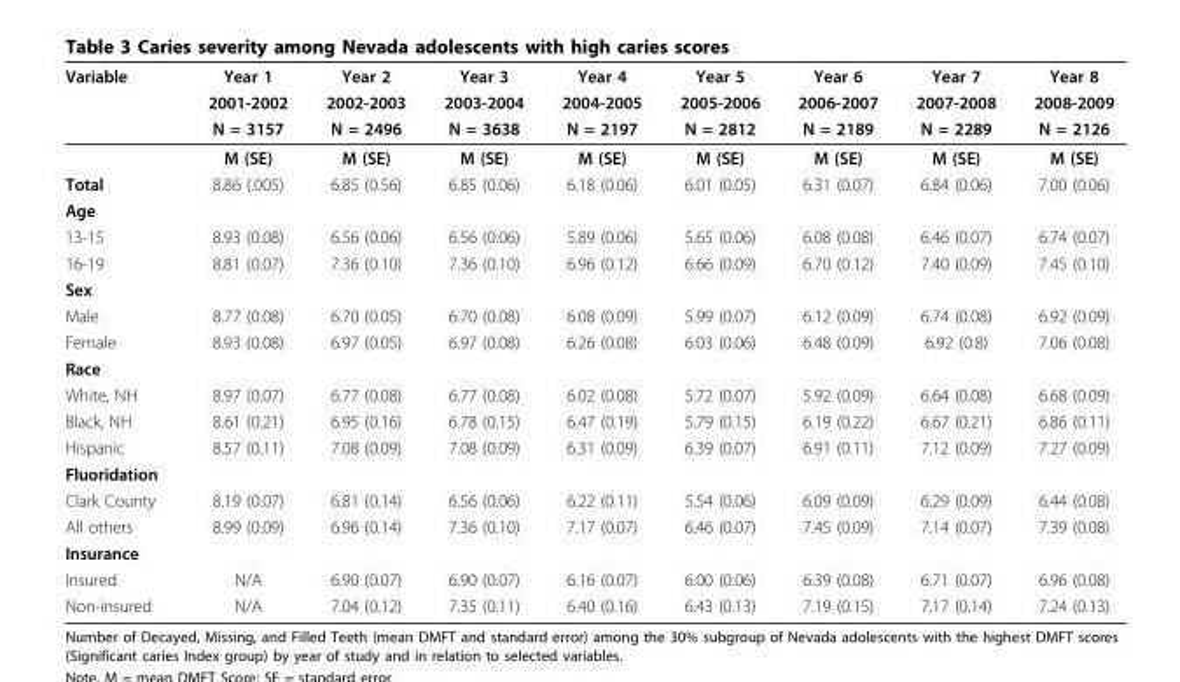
<table><thead><tr><td rowspan="3">Variable</td><td rowspan="3">Year 1 2001-2002 N = 3157</td><td rowspan="3">Year 2 2002-2003 N = 2496</td><td rowspan="3">Year 3 2003-2004 N = 3638</td><td rowspan="3">Year 4 2004-2005 N = 2197</td><td rowspan="3">Year 5 2005-2006 N = 2812</td><td rowspan="3">Year 6 2006-2007 N = 2189</td><td rowspan="3">Year 7 2007-2008 N = 2289</td><td rowspan="3">Year 8 2008-2009 N = 2126</td></tr><tr></tr><tr></tr></thead><tbody><tr><td></td><td>M (SE)</td><td>M (SE)</td><td>M (SE)</td><td>M (SE)</td><td>M (SE)</td><td>M (SE)</td><td>M (SE)</td><td>M (SE)</td></tr><tr><td>Total</td><td>8.86 (.005)</td><td>6.85 (0.56)</td><td>6.85 (0.06)</td><td>6.18 (0.06)</td><td>6.01 (0.05)</td><td>6.31 (0.07)</td><td>6.84 (0.06)</td><td>7.00 (0.06)</td></tr><tr><td colspan="9">Age</td></tr><tr><td>13-15</td><td>8.93 (0.08)</td><td>6.56 (0.06)</td><td>6.56 (0.06)</td><td>5.89 (0.06)</td><td>5.65 (0.06)</td><td>6.08 (0.08)</td><td>6.46 (0.07)</td><td>6.74 (0.07)</td></tr><tr><td>16-19</td><td>8.81 (0.07)</td><td>7.36 (0.10)</td><td>7.36 (0.10)</td><td>6.96 (0.12)</td><td>6.66 (0.09)</td><td>6.70 (0.12)</td><td>7.40 (0.09)</td><td>7.45 (0.10)</td></tr><tr><td colspan="9">Sex</td></tr><tr><td>Male</td><td>8.77 (0.08)</td><td>6.70 (0.05)</td><td>6.70 (0.08)</td><td>6.08 (0.09)</td><td>5.99 (0.07)</td><td>6.12 (0.09)</td><td>6.74 (0.08)</td><td>6.92 (0.09)</td></tr><tr><td>Female</td><td>8.93 (0.08)</td><td>6.97 (0.05)</td><td>6.97 (0.08)</td><td>6.26 (0.08)</td><td>6.03 (0.06)</td><td>6.48 (0.09)</td><td>6.92 (0.8)</td><td>7.06 (0.08)</td></tr><tr><td colspan="9">Race</td></tr><tr><td>White, NH</td><td>8.97 (0.07)</td><td>6.77 (0.08)</td><td>6.77 (0.08)</td><td>6.02 (0.08)</td><td>5.72 (0.07)</td><td>5.92 (0.09)</td><td>6.64 (0.08)</td><td>6.68 (0.09)</td></tr><tr><td>Black, NH</td><td>8.61 (0.21)</td><td>6.95 (0.16)</td><td>6.78 (0.15)</td><td>6.47 (0.19)</td><td>5.79 (0.15)</td><td>6.19 (0.22)</td><td>6.67 (0.21)</td><td>6.86 (0.11)</td></tr><tr><td>Hispanic</td><td>8.57 (0.11)</td><td>7.08 (0.09)</td><td>7.08 (0.09)</td><td>6.31 (0.09)</td><td>6.39 (0.07)</td><td>6.91 (0.11)</td><td>7.12 (0.09)</td><td>7.27 (0.09)</td></tr><tr><td colspan="9">Fluoridation</td></tr><tr><td>Clark County</td><td>8.19 (0.07)</td><td>6.81 (0.14)</td><td>6.56 (0.06)</td><td>6.22 (0.11)</td><td>5.54 (0.06)</td><td>6.09 (0.09)</td><td>6.29 (0.09)</td><td>6.44 (0.08)</td></tr><tr><td>All others</td><td>8.99 (0.09)</td><td>6.96 (0.14)</td><td>7.36 (0.10)</td><td>7.17 (0.07)</td><td>6.46 (0.07)</td><td>7.45 (0.09)</td><td>7.14 (0.07)</td><td>7.39 (0.08)</td></tr><tr><td colspan="9">Insurance</td></tr><tr><td>Insured</td><td>N/A</td><td>6.90 (0.07)</td><td>6.90 (0.07)</td><td>6.16 (0.07)</td><td>6.00 (0.06)</td><td>6.39 (0.08)</td><td>6.71 (0.07)</td><td>6.96 (0.08)</td></tr><tr><td>Non-insured</td><td>N/A</td><td>7.04 (0.12)</td><td>7.35 (0.11)</td><td>6.40 (0.16)</td><td>6.43 (0.13)</td><td>7.19 (0.15)</td><td>7.17 (0.14)</td><td>7.24 (0.13)</td></tr></tbody></table>